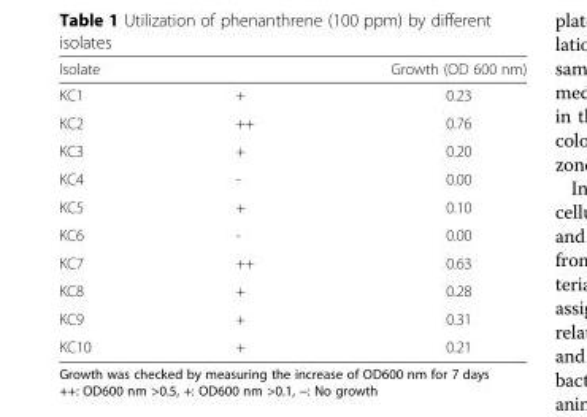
<table><thead><tr><td>Isolate</td><td></td><td>Growth (OD 600 nm)</td></tr></thead><tbody><tr><td>KC1</td><td>+</td><td>0.23</td></tr><tr><td>KC2</td><td>++</td><td>0.76</td></tr><tr><td>KC3</td><td>+</td><td>0.20</td></tr><tr><td>KC4</td><td>-</td><td>0.00</td></tr><tr><td>KC5</td><td>+</td><td>0.10</td></tr><tr><td>KC6</td><td>-</td><td>0.00</td></tr><tr><td>KC7</td><td>++</td><td>0.63</td></tr><tr><td>KC8</td><td>+</td><td>0.28</td></tr><tr><td>KC9</td><td>+</td><td>0.31</td></tr><tr><td>KC10</td><td>+</td><td>0.21</td></tr></tbody></table>